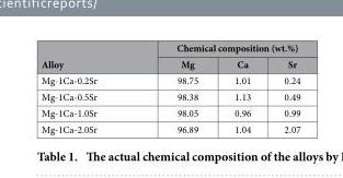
<table><thead><tr><td rowspan="2">Alloy</td><td colspan="3">Chemical composition (wt.%)</td></tr><tr><td>Mg</td><td>Ca</td><td>Sr</td></tr></thead><tbody><tr><td>Mg-1Ca-0.2Sr</td><td>98.75</td><td>1.01</td><td>0.24</td></tr><tr><td>Mg-1Ca-0.5Sr</td><td>98.38</td><td>1.13</td><td>0.49</td></tr><tr><td>Mg-1Ca-1.0Sr</td><td>98.05</td><td>0.96</td><td>0.99</td></tr><tr><td>Mg-1Ca-2.0Sr</td><td>96.89</td><td>1.04</td><td>2.07</td></tr></tbody></table>